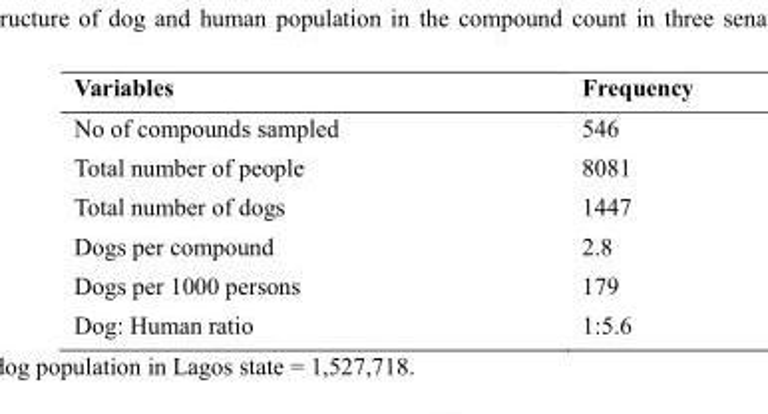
<table><thead><tr><td>Variables</td><td>Frequency</td></tr></thead><tbody><tr><td>No of compounds sampled</td><td>546</td></tr><tr><td>Total number of people</td><td>8081</td></tr><tr><td>Total number of dogs</td><td>1447</td></tr><tr><td>Dogs per compound</td><td>2.8</td></tr><tr><td>Dogs per 1000 persons</td><td>179</td></tr><tr><td>Dog: Human ratio</td><td>1:5.6</td></tr></tbody></table>